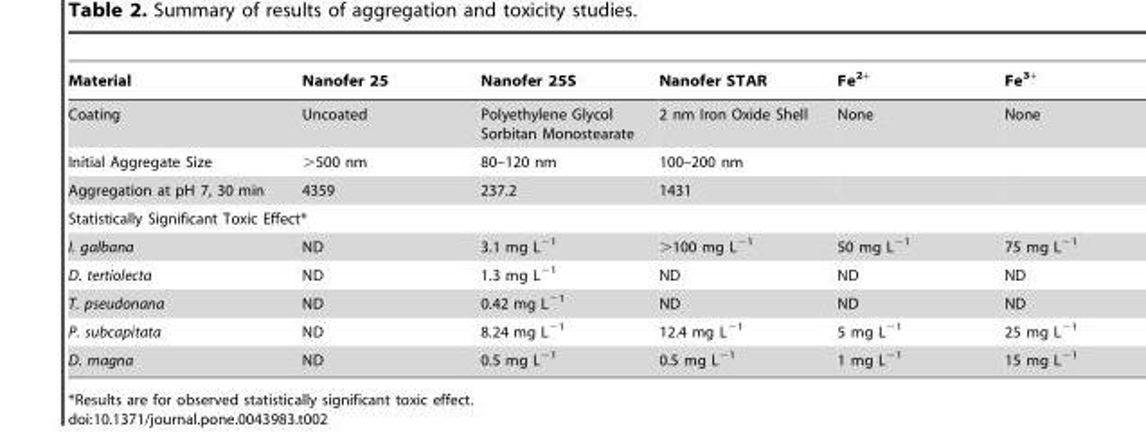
<table><thead><tr><td>Material</td><td>Nanofer 25</td><td>Nanofer 25S</td><td>Nanofer STAR</td><td>Fe<sup>2+</sup></td><td>Fe<sup>3+</sup></td></tr></thead><tbody><tr><td>Coating</td><td>Uncoated</td><td>Polyethylene Glycol Sorbitan Monostearate</td><td>2 nm Iron Oxide Shell</td><td>None</td><td>None</td></tr><tr><td>Initial Aggregate Size</td><td>&gt;500 nm</td><td>80–120 nm</td><td>100–200 nm</td><td></td><td></td></tr><tr><td>Aggregation at pH 7, 30 min</td><td>4359</td><td>237.2</td><td>1431</td><td></td><td></td></tr><tr><td colspan="6">Statistically Significant Toxic Effect*</td></tr><tr><td>I. galbana</td><td>ND</td><td>3.1 mg L<sup>−1</sup></td><td>&gt;100 mg L<sup>−1</sup></td><td>50 mg L<sup>−1</sup></td><td>75 mg L<sup>−1</sup></td></tr><tr><td>D. tertiolecta</td><td>ND</td><td>1.3 mg L<sup>−1</sup></td><td>ND</td><td>ND</td><td>ND</td></tr><tr><td>T. pseudonana</td><td>ND</td><td>0.42 mg L<sup>−1</sup></td><td>ND</td><td>ND</td><td>ND</td></tr><tr><td>P. subcapitata</td><td>ND</td><td>8.24 mg L<sup>−1</sup></td><td>12.4 mg L<sup>−1</sup></td><td>5 mg L<sup>−1</sup></td><td>25 mg L<sup>−1</sup></td></tr><tr><td>D. magna</td><td>ND</td><td>0.5 mg L<sup>−1</sup></td><td>0.5 mg L<sup>−1</sup></td><td>1 mg L<sup>−1</sup></td><td>15 mg L<sup>−1</sup></td></tr></tbody></table>